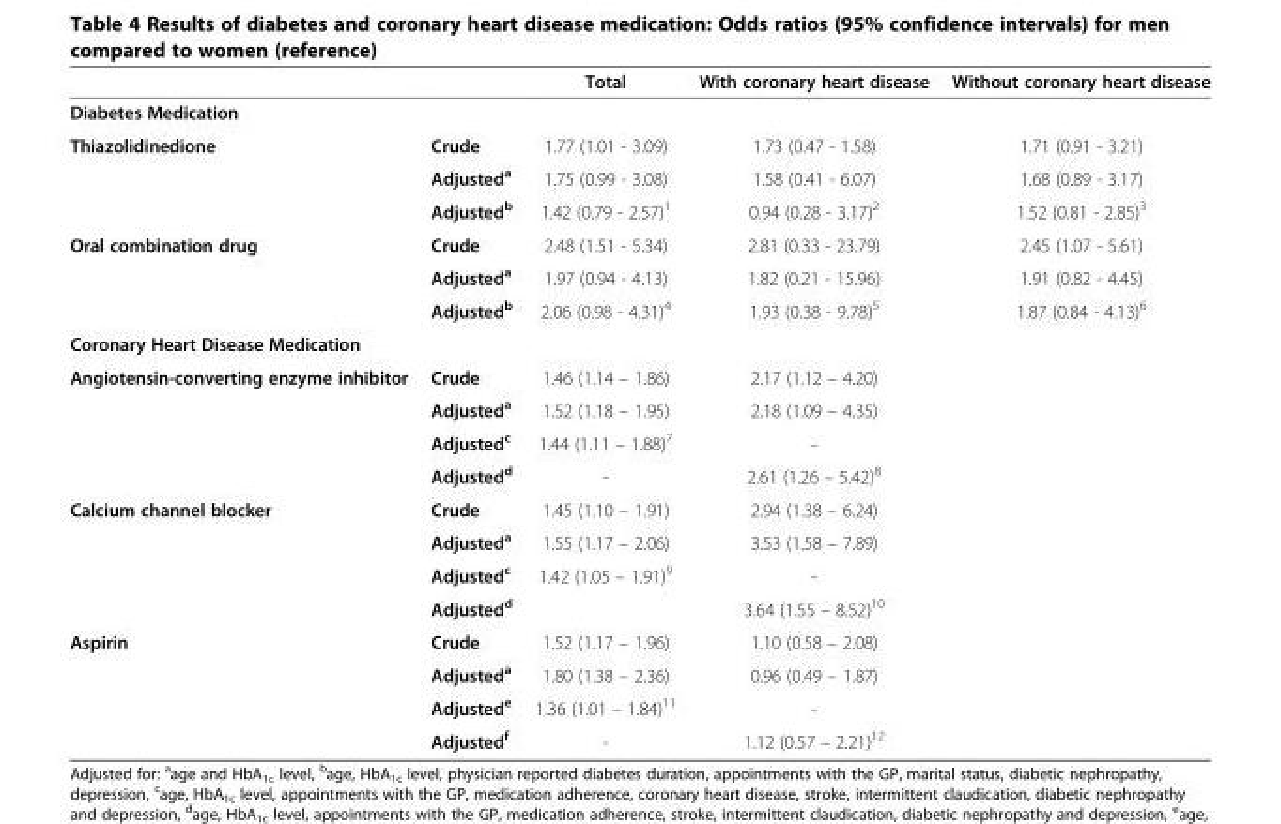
<table><thead><tr><td></td><td></td><td>Total</td><td>With coronary heart disease</td><td>Without coronary heart disease</td></tr></thead><tbody><tr><td colspan="5">Diabetes Medication</td></tr><tr><td rowspan="3">Thiazolidinedione</td><td>Crude</td><td>1.77 (1.01 - 3.09)</td><td>1.73 (0.47 - 1.58)</td><td>1.71 (0.91 - 3.21)</td></tr><tr><td>Adjusted<sup>a</sup></td><td>1.75 (0.99 - 3.08)</td><td>1.58 (0.41 - 6.07)</td><td>1.68 (0.89 - 3.17)</td></tr><tr><td>Adjusted<sup>b</sup></td><td>1.42 (0.79 - 2.57)<sup>1</sup></td><td>0.94 (0.28 - 3.17)<sup>2</sup></td><td>1.52 (0.81 - 2.85)<sup>3</sup></td></tr><tr><td rowspan="3">Oral combination drug</td><td>Crude</td><td>2.48 (1.51 - 5.34)</td><td>2.81 (0.33 - 23.79)</td><td>2.45 (1.07 - 5.61)</td></tr><tr><td>Adjusted<sup>a</sup></td><td>1.97 (0.94 - 4.13)</td><td>1.82 (0.21 - 15.96)</td><td>1.91 (0.82 - 4.45)</td></tr><tr><td>Adjusted<sup>b</sup></td><td>2.06 (0.98 - 4.31)<sup>4</sup></td><td>1.93 (0.38 - 9.78)<sup>5</sup></td><td>1.87 (0.84 - 4.13)<sup>6</sup></td></tr><tr><td colspan="5">Coronary Heart Disease Medication</td></tr><tr><td rowspan="4">Angiotensin-converting enzyme inhibitor</td><td>Crude</td><td>1.46 (1.14 – 1.86)</td><td>2.17 (1.12 – 4.20)</td><td></td></tr><tr><td>Adjusted<sup>a</sup></td><td>1.52 (1.18 – 1.95)</td><td>2.18 (1.09 – 4.35)</td><td></td></tr><tr><td>Adjusted<sup>c</sup></td><td>1.44 (1.11 – 1.88)<sup>7</sup></td><td>-</td><td></td></tr><tr><td>Adjusted<sup>d</sup></td><td>-</td><td>2.61 (1.26 – 5.42)<sup>8</sup></td><td></td></tr><tr><td rowspan="4">Calcium channel blocker</td><td>Crude</td><td>1.45 (1.10 – 1.91)</td><td>2.94 (1.38 – 6.24)</td><td></td></tr><tr><td>Adjusted<sup>a</sup></td><td>1.55 (1.17 – 2.06)</td><td>3.53 (1.58 – 7.89)</td><td></td></tr><tr><td>Adjusted<sup>c</sup></td><td>1.42 (1.05 – 1.91)<sup>9</sup></td><td>-</td><td></td></tr><tr><td>Adjusted<sup>d</sup></td><td></td><td>3.64 (1.55 – 8.52)<sup>10</sup></td><td></td></tr><tr><td rowspan="4">Aspirin</td><td>Crude</td><td>1.52 (1.17 – 1.96)</td><td>1.10 (0.58 – 2.08)</td><td></td></tr><tr><td>Adjusted<sup>a</sup></td><td>1.80 (1.38 – 2.36)</td><td>0.96 (0.49 – 1.87)</td><td></td></tr><tr><td>Adjusted<sup>e</sup></td><td>1.36 (1.01 – 1.84)<sup>11</sup></td><td>-</td><td></td></tr><tr><td>Adjusted<sup>f</sup></td><td>-</td><td>1.12 (0.57 – 2.21)<sup>12</sup></td><td></td></tr></tbody></table>